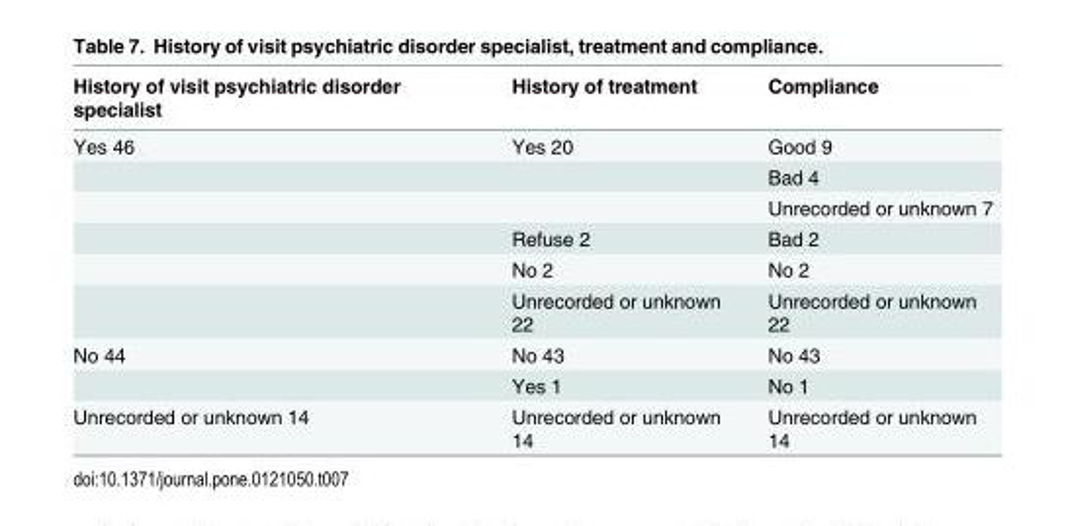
<table><thead><tr><td>History of visit psychiatric disorder specialist</td><td>History of treatment</td><td>Compliance</td></tr></thead><tbody><tr><td rowspan="6">Yes 46</td><td>Yes 20</td><td>Good 9</td></tr><tr><td></td><td>Bad 4</td></tr><tr><td></td><td>Unrecorded or unknown 7</td></tr><tr><td>Refuse 2</td><td>Bad 2</td></tr><tr><td>No 2</td><td>No 2</td></tr><tr><td>Unrecorded or unknown 22</td><td>Unrecorded or unknown 22</td></tr><tr><td rowspan="2">No 44</td><td>No 43</td><td>No 43</td></tr><tr><td>Yes 1</td><td>No 1</td></tr><tr><td>Unrecorded or unknown 14</td><td>Unrecorded or unknown 14</td><td>Unrecorded or unknown 14</td></tr></tbody></table>